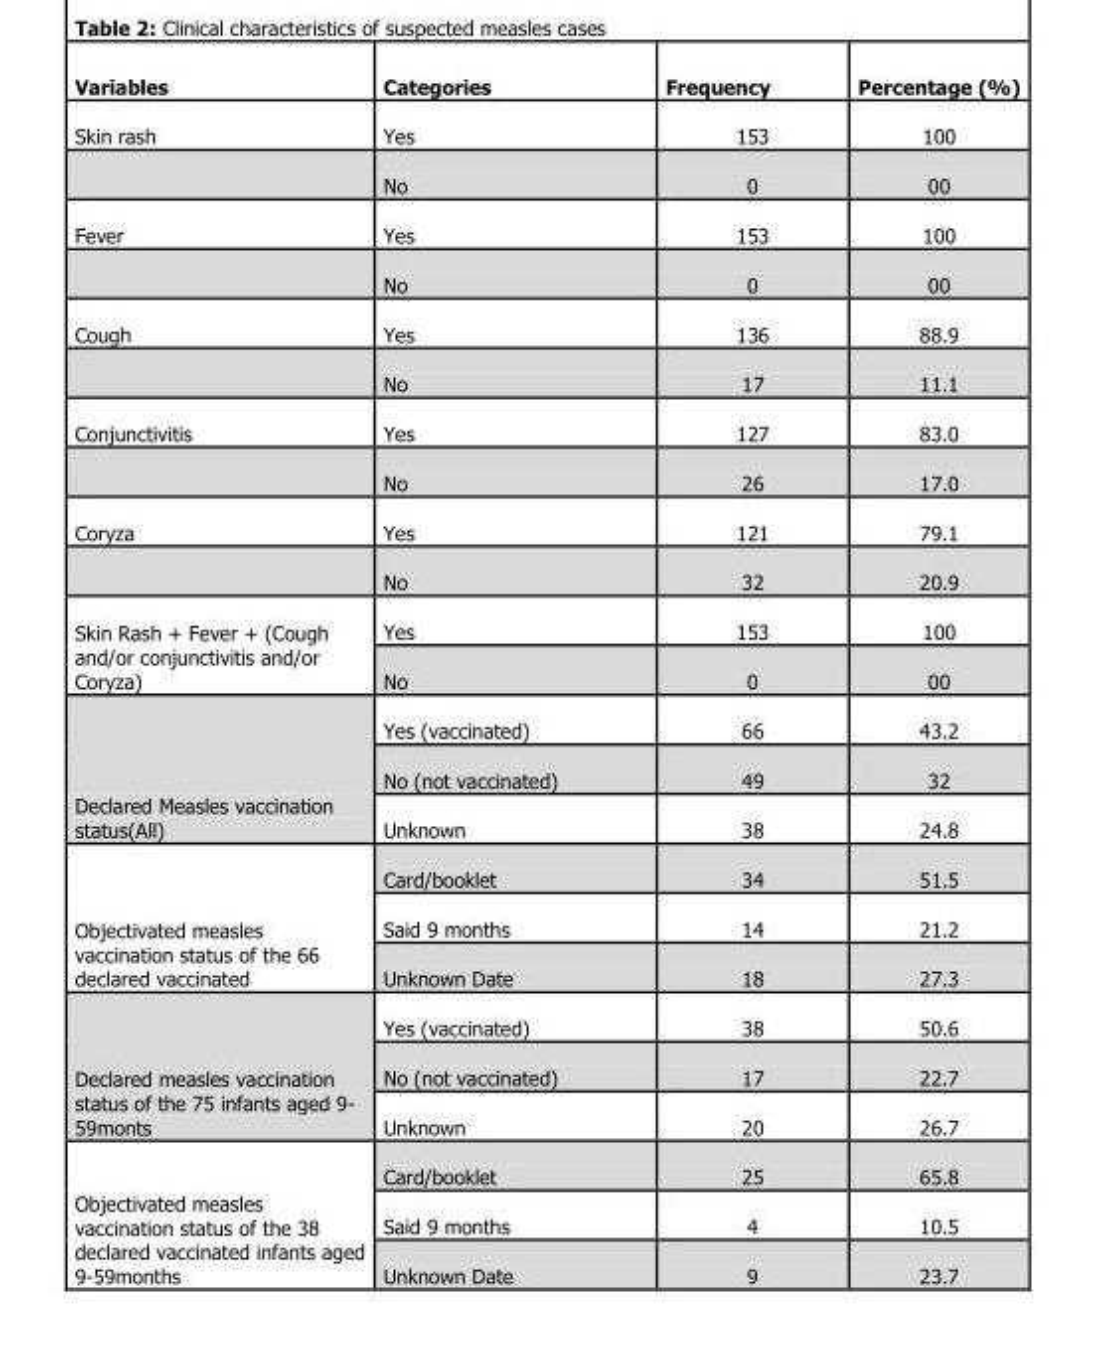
<table><thead><tr><td>Variables</td><td>Categories</td><td>Frequency</td><td>Percentage (%)</td></tr></thead><tbody><tr><td rowspan="2">Skin rash</td><td>Yes</td><td>153</td><td>100</td></tr><tr><td>No</td><td>0</td><td>00</td></tr><tr><td rowspan="2">Fever</td><td>Yes</td><td>153</td><td>100</td></tr><tr><td>No</td><td>0</td><td>00</td></tr><tr><td rowspan="2">Cough</td><td>Yes</td><td>136</td><td>88.9</td></tr><tr><td>No</td><td>17</td><td>11.1</td></tr><tr><td rowspan="2">Conjunctivitis</td><td>Yes</td><td>127</td><td>83.0</td></tr><tr><td>No</td><td>26</td><td>17.0</td></tr><tr><td rowspan="2">Coryza</td><td>Yes</td><td>121</td><td>79.1</td></tr><tr><td>No</td><td>32</td><td>20.9</td></tr><tr><td rowspan="2">Skin Rash + Fever + (Cough and/or conjunctivitis and/or Coryza)</td><td>Yes</td><td>153</td><td>100</td></tr><tr><td>No</td><td>0</td><td>00</td></tr><tr><td rowspan="3">Declared Measles vaccination status(All)</td><td>Yes (vaccinated)</td><td>66</td><td>43.2</td></tr><tr><td>No (not vaccinated)</td><td>49</td><td>32</td></tr><tr><td>Unknown</td><td>38</td><td>24.8</td></tr><tr><td rowspan="3">Objectivated measles vaccination status of the 66 declared vaccinated</td><td>Card/booklet</td><td>34</td><td>51.5</td></tr><tr><td>Said 9 months</td><td>14</td><td>21.2</td></tr><tr><td>Unknown Date</td><td>18</td><td>27.3</td></tr><tr><td rowspan="3">Declared measles vaccination status of the 75 infants aged 9- 59monts</td><td>Yes (vaccinated)</td><td>38</td><td>50.6</td></tr><tr><td>No (not vaccinated)</td><td>17</td><td>22.7</td></tr><tr><td>Unknown</td><td>20</td><td>26.7</td></tr><tr><td rowspan="3">Objectivated measles vaccination status of the 38 declared vaccinated infants aged 9-59months</td><td>Card/booklet</td><td>25</td><td>65.8</td></tr><tr><td>Said 9 months</td><td>4</td><td>10.5</td></tr><tr><td>Unknown Date</td><td>9</td><td>23.7</td></tr></tbody></table>